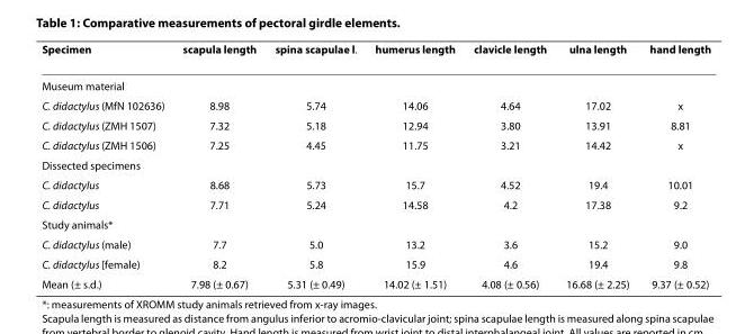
<table><thead><tr><td>Specimen</td><td>scapula length</td><td>spina scapulae l.</td><td>humerus length</td><td>clavicle length</td><td>ulna length</td><td>hand length</td></tr></thead><tbody><tr><td colspan="7">Museum material</td></tr><tr><td>C. didactylus (MfN 102636)</td><td>8.98</td><td>5.74</td><td>14.06</td><td>4.64</td><td>17.02</td><td>x</td></tr><tr><td>C. didactylus (ZMH 1507)</td><td>7.32</td><td>5.18</td><td>12.94</td><td>3.80</td><td>13.91</td><td>8.81</td></tr><tr><td>C. didactylus (ZMH 1506)</td><td>7.25</td><td>4.45</td><td>11.75</td><td>3.21</td><td>14.42</td><td>x</td></tr><tr><td colspan="7">Dissected specimens</td></tr><tr><td>C. didactylus</td><td>8.68</td><td>5.73</td><td>15.7</td><td>4.52</td><td>19.4</td><td>10.01</td></tr><tr><td>C. didactylus</td><td>7.71</td><td>5.24</td><td>14.58</td><td>4.2</td><td>17.38</td><td>9.2</td></tr><tr><td colspan="7">Study animals*</td></tr><tr><td>C. didactylus (male)</td><td>7.7</td><td>5.0</td><td>13.2</td><td>3.6</td><td>15.2</td><td>9.0</td></tr><tr><td>C. didactylus [female)</td><td>8.2</td><td>5.8</td><td>15.9</td><td>4.6</td><td>19.4</td><td>9.8</td></tr><tr><td>Mean (± s.d.)</td><td>7.98 (± 0.67)</td><td>5.31 (± 0.49)</td><td>14.02 (± 1.51)</td><td>4.08 (± 0.56)</td><td>16.68 (± 2.25)</td><td>9.37 (± 0.52)</td></tr></tbody></table>